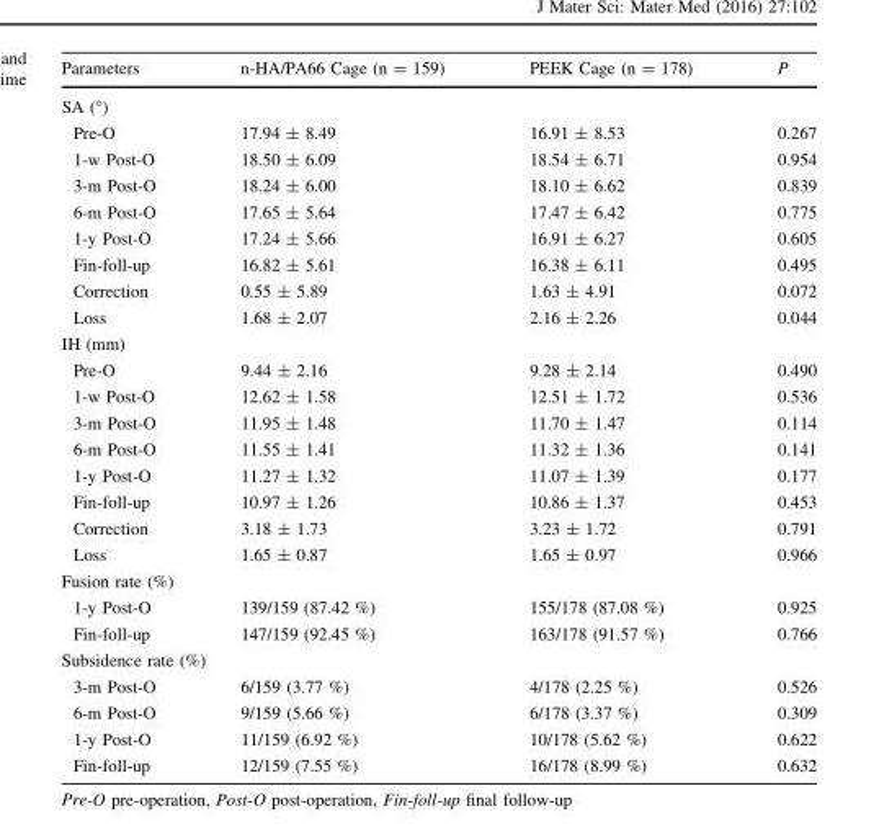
<table><thead><tr><td>Parameters</td><td>n-HA/PA66 Cage (n = 159)</td><td>PEEK Cage (n = 178)</td><td>P</td></tr></thead><tbody><tr><td colspan="4">SA (°)</td></tr><tr><td>Pre-O</td><td>17.94 ± 8.49</td><td>16.91 ± 8.53</td><td>0.267</td></tr><tr><td>1-w Post-O</td><td>18.50 ± 6.09</td><td>18.54 ± 6.71</td><td>0.954</td></tr><tr><td>3-m Post-O</td><td>18.24 ± 6.00</td><td>18.10 ± 6.62</td><td>0.839</td></tr><tr><td>6-m Post-O</td><td>17.65 ± 5.64</td><td>17.47 ± 6.42</td><td>0.775</td></tr><tr><td>1-y Post-O</td><td>17.24 ± 5.66</td><td>16.91 ± 6.27</td><td>0.605</td></tr><tr><td>Fin-foll-up</td><td>16.82 ± 5.61</td><td>16.38 ± 6.11</td><td>0.495</td></tr><tr><td>Correction</td><td>0.55 ± 5.89</td><td>1.63 ± 4.91</td><td>0.072</td></tr><tr><td>Loss</td><td>1.68 ± 2.07</td><td>2.16 ± 2.26</td><td>0.044</td></tr><tr><td colspan="4">IH (mm)</td></tr><tr><td>Pre-O</td><td>9.44 ± 2.16</td><td>9.28 ± 2.14</td><td>0.490</td></tr><tr><td>1-w Post-O</td><td>12.62 ± 1.58</td><td>12.51 ± 1.72</td><td>0.536</td></tr><tr><td>3-m Post-O</td><td>11.95 ± 1.48</td><td>11.70 ± 1.47</td><td>0.114</td></tr><tr><td>6-m Post-O</td><td>11.55 ± 1.41</td><td>11.32 ± 1.36</td><td>0.141</td></tr><tr><td>1-y Post-O</td><td>11.27 ± 1.32</td><td>11.07 ± 1.39</td><td>0.177</td></tr><tr><td>Fin-foll-up</td><td>10.97 ± 1.26</td><td>10.86 ± 1.37</td><td>0.453</td></tr><tr><td>Correction</td><td>3.18 ± 1.73</td><td>3.23 ± 1.72</td><td>0.791</td></tr><tr><td>Loss</td><td>1.65 ± 0.87</td><td>1.65 ± 0.97</td><td>0.966</td></tr><tr><td colspan="4">Fusion rate (%)</td></tr><tr><td>1-y Post-O</td><td>139/159 (87.42 %)</td><td>155/178 (87.08 %)</td><td>0.925</td></tr><tr><td>Fin-foll-up</td><td>147/159 (92.45 %)</td><td>163/178 (91.57 %)</td><td>0.766</td></tr><tr><td colspan="4">Subsidence rate (%)</td></tr><tr><td>3-m Post-O</td><td>6/159 (3.77 %)</td><td>4/178 (2.25 %)</td><td>0.526</td></tr><tr><td>6-m Post-O</td><td>9/159 (5.66 %)</td><td>6/178 (3.37 %)</td><td>0.309</td></tr><tr><td>1-y Post-O</td><td>11/159 (6.92 %)</td><td>10/178 (5.62 %)</td><td>0.622</td></tr><tr><td>Fin-foll-up</td><td>12/159 (7.55 %)</td><td>16/178 (8.99 %)</td><td>0.632</td></tr></tbody></table>